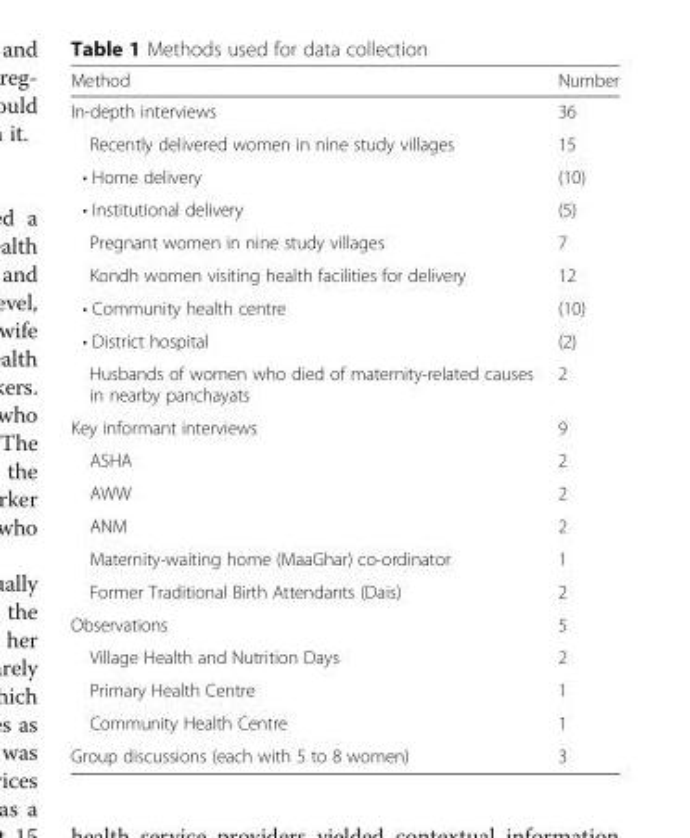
<table><thead><tr><td>Method</td><td>Number</td></tr></thead><tbody><tr><td>In-depth interviews</td><td>36</td></tr><tr><td>Recently delivered women in nine study villages</td><td>15</td></tr><tr><td>• Home delivery</td><td>(10)</td></tr><tr><td>• Institutional delivery</td><td>(5)</td></tr><tr><td>Pregnant women in nine study villages</td><td>7</td></tr><tr><td>Kondh women visiting health facilities for delivery</td><td>12</td></tr><tr><td>• Community health centre</td><td>(10)</td></tr><tr><td>• District hospital</td><td>(2)</td></tr><tr><td>Husbands of women who died of maternity-related causes in nearby panchayats</td><td>2</td></tr><tr><td>Key informant interviews</td><td>9</td></tr><tr><td>ASHA</td><td>2</td></tr><tr><td>AWW</td><td>2</td></tr><tr><td>ANM</td><td>2</td></tr><tr><td>Maternity-waiting home (MaaGhar) co-ordinator</td><td>1</td></tr><tr><td>Former Traditional Birth Attendants (Dais)</td><td>2</td></tr><tr><td>Observations</td><td>5</td></tr><tr><td>Village Health and Nutrition Days</td><td>2</td></tr><tr><td>Primary Health Centre</td><td>1</td></tr><tr><td>Community Health Centre</td><td>1</td></tr><tr><td>Group discussions (each with 5 to 8 women)</td><td>3</td></tr></tbody></table>